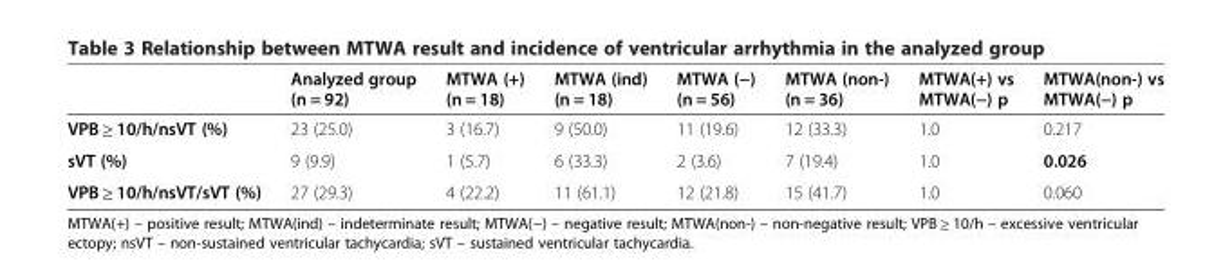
<table><thead><tr><td></td><td>Analyzed group (n = 92)</td><td>MTWA (+) (n = 18)</td><td>MTWA (ind) (n = 18)</td><td>MTWA (−) (n = 56)</td><td>MTWA (non-) (n = 36)</td><td>MTWA(+) vs MTWA(−) p</td><td>MTWA(non-) vs MTWA(−) p</td></tr></thead><tbody><tr><td>VPB ≥ 10/h/nsVT (%)</td><td>23 (25.0)</td><td>3 (16.7)</td><td>9 (50.0)</td><td>11 (19.6)</td><td>12 (33.3)</td><td>1.0</td><td>0.217</td></tr><tr><td>sVT (%)</td><td>9 (9.9)</td><td>1 (5.7)</td><td>6 (33.3)</td><td>2 (3.6)</td><td>7 (19.4)</td><td>1.0</td><td>0.026</td></tr><tr><td>VPB ≥ 10/h/nsVT/sVT (%)</td><td>27 (29.3)</td><td>4 (22.2)</td><td>11 (61.1)</td><td>12 (21.8)</td><td>15 (41.7)</td><td>1.0</td><td>0.060</td></tr></tbody></table>